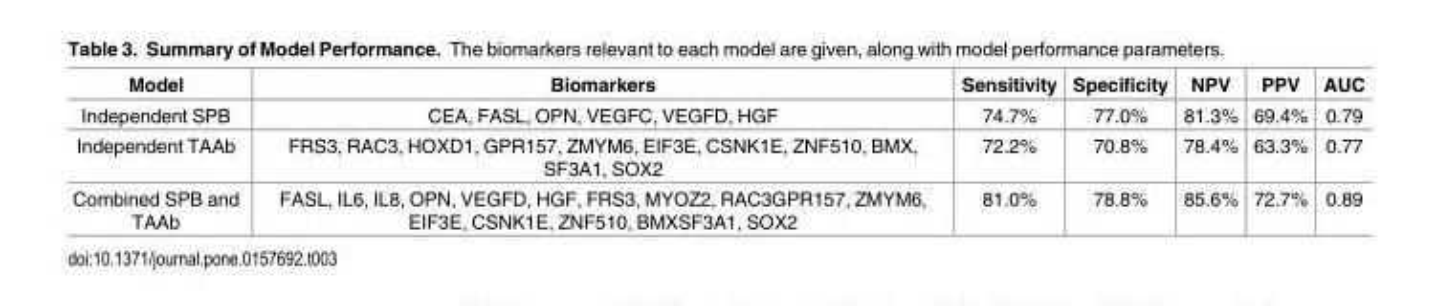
<table><thead><tr><td>Model</td><td>Biomarkers</td><td>Sensitivity</td><td>Specificity</td><td>NPV</td><td>PPV</td><td>AUC</td></tr></thead><tbody><tr><td>Independent SPB</td><td>CEA, FASL, OPN, VEGFC, VEGFD, HGF</td><td>74.7%</td><td>77.0%</td><td>81.3%</td><td>69.4%</td><td>0.79</td></tr><tr><td>Independent TAAb</td><td>FRS3, RAC3, HOXD1, GPR157, ZMYM6, EIF3E, CSNK1E, ZNF510, BMX, SF3A1, SOX2</td><td>72.2%</td><td>70.8%</td><td>78.4%</td><td>63.3%</td><td>0.77</td></tr><tr><td>Combined SPB and TAAb</td><td>FASL, IL6, IL8, OPN, VEGFD, HGF, FRS3, MYOZ2, RAC3GPR157, ZMYM6, EIF3E, CSNK1E, ZNF510, BMXSF3A1, SOX2</td><td>81.0%</td><td>78.8%</td><td>85.6%</td><td>72.7%</td><td>0.89</td></tr></tbody></table>